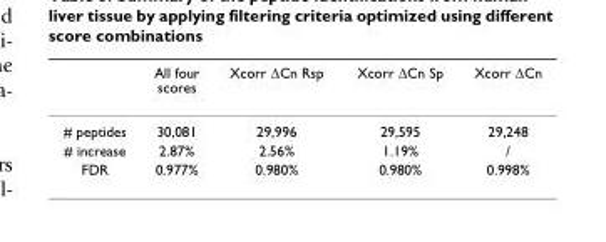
<table><thead><tr><td></td><td>All four scores</td><td>Xcorr ΔCn Rsp</td><td>Xcorr ΔCn Sp</td><td>Xcorr ΔCn</td></tr></thead><tbody><tr><td># peptides</td><td>30,081</td><td>29,996</td><td>29,595</td><td>29,248</td></tr><tr><td># increase</td><td>2.87%</td><td>2.56%</td><td>1.19%</td><td>/</td></tr><tr><td>FDR</td><td>0.977%</td><td>0.980%</td><td>0.980%</td><td>0.998%</td></tr></tbody></table>